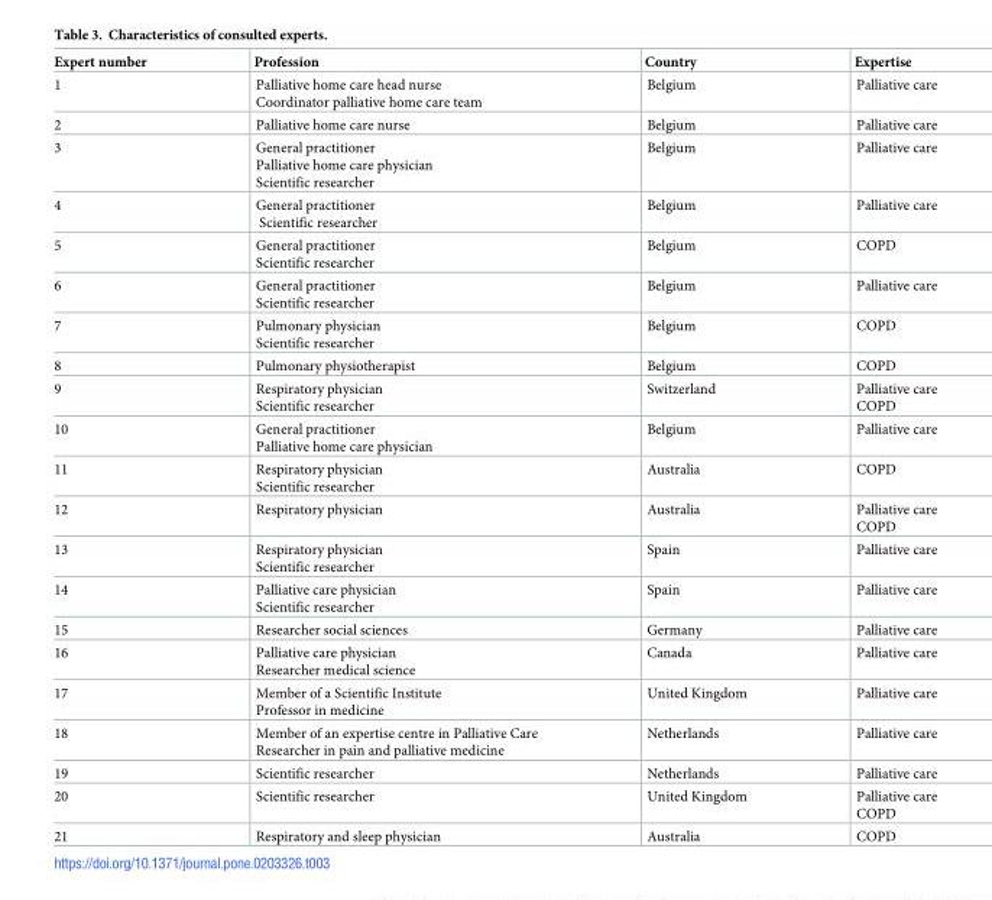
<table><thead><tr><td>Expert number</td><td>Profession</td><td>Country</td><td>Expertise</td></tr></thead><tbody><tr><td>1</td><td>Palliative home care head nurse Coordinator palliative home care team</td><td>Belgium</td><td>Palliative care</td></tr><tr><td>2</td><td>Palliative home care nurse</td><td>Belgium</td><td>Palliative care</td></tr><tr><td>3</td><td>General practitioner Palliative home care physician Scientific researcher</td><td>Belgium</td><td>Palliative care</td></tr><tr><td>4</td><td>General practitioner Scientific researcher</td><td>Belgium</td><td>Palliative care</td></tr><tr><td>5</td><td>General practitioner Scientific researcher</td><td>Belgium</td><td>COPD</td></tr><tr><td>6</td><td>General practitioner Scientific researcher</td><td>Belgium</td><td>Palliative care</td></tr><tr><td>7</td><td>Pulmonary physician Scientific researcher</td><td>Belgium</td><td>COPD</td></tr><tr><td>8</td><td>Pulmonary physiotherapist</td><td>Belgium</td><td>COPD</td></tr><tr><td>9</td><td>Respiratory physician Scientific researcher</td><td>Switzerland</td><td>Palliative care COPD</td></tr><tr><td>10</td><td>General practitioner Palliative home care physician</td><td>Belgium</td><td>Palliative care</td></tr><tr><td>11</td><td>Respiratory physician Scientific researcher</td><td>Australia</td><td>COPD</td></tr><tr><td>12</td><td>Respiratory physician</td><td>Australia</td><td>Palliative care COPD</td></tr><tr><td>13</td><td>Respiratory physician Scientific researcher</td><td>Spain</td><td>Palliative care</td></tr><tr><td>14</td><td>Palliative care physician Scientific researcher</td><td>Spain</td><td>Palliative care</td></tr><tr><td>15</td><td>Researcher social sciences</td><td>Germany</td><td>Palliative care</td></tr><tr><td>16</td><td>Palliative care physician Researcher medical science</td><td>Canada</td><td>Palliative care</td></tr><tr><td>17</td><td>Member of a Scientific Institute Professor in medicine</td><td>United Kingdom</td><td>Palliative care</td></tr><tr><td>18</td><td>Member of an expertise centre in Palliative Care Researcher in pain and palliative medicine</td><td>Netherlands</td><td>Palliative care</td></tr><tr><td>19</td><td>Scientific researcher</td><td>Netherlands</td><td>Palliative care</td></tr><tr><td>20</td><td>Scientific researcher</td><td>United Kingdom</td><td>Palliative care COPD</td></tr><tr><td>21</td><td>Respiratory and sleep physician</td><td>Australia</td><td>COPD</td></tr></tbody></table>